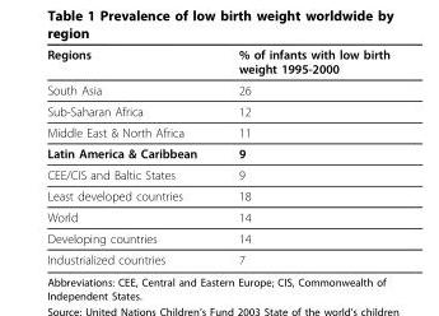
<table><thead><tr><td>Regions</td><td>% of infants with low birth weight 1995-2000</td></tr></thead><tbody><tr><td>South Asia</td><td>26</td></tr><tr><td>Sub-Saharan Africa</td><td>12</td></tr><tr><td>Middle East &amp; North Africa</td><td>11</td></tr><tr><td>Latin America &amp; Caribbean</td><td>9</td></tr><tr><td>CEE/CIS and Baltic States</td><td>9</td></tr><tr><td>Least developed countries</td><td>18</td></tr><tr><td>World</td><td>14</td></tr><tr><td>Developing countries</td><td>14</td></tr><tr><td>Industrialized countries</td><td>7</td></tr></tbody></table>